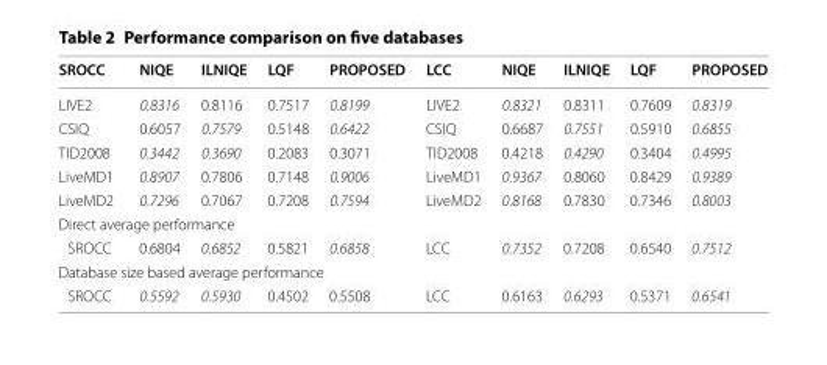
<table><thead><tr><td>SROCC</td><td>NIQE</td><td>ILNIQE</td><td>LQF</td><td>PROPOSED</td><td>LCC</td><td>NIQE</td><td>ILNIQE</td><td>LQF</td><td>PROPOSED</td></tr></thead><tbody><tr><td>LIVE2</td><td>0.8316</td><td>0.8116</td><td>0.7517</td><td>0.8199</td><td>LIVE2</td><td>0.8321</td><td>0.8311</td><td>0.7609</td><td>0.8319</td></tr><tr><td>CSIQ</td><td>0.6057</td><td>0.7579</td><td>0.5148</td><td>0.6422</td><td>CSIQ</td><td>0.6687</td><td>0.7551</td><td>0.5910</td><td>0.6855</td></tr><tr><td>TID2008</td><td>0.3442</td><td>0.3690</td><td>0.2083</td><td>0.3071</td><td>TID2008</td><td>0.4218</td><td>0.4290</td><td>0.3404</td><td>0.4995</td></tr><tr><td>LiveMD1</td><td>0.8907</td><td>0.7806</td><td>0.7148</td><td>0.9006</td><td>LiveMD1</td><td>0.9367</td><td>0.8060</td><td>0.8429</td><td>0.9389</td></tr><tr><td>LiveMD2</td><td>0.7296</td><td>0.7067</td><td>0.7208</td><td>0.7594</td><td>LiveMD2</td><td>0.8168</td><td>0.7830</td><td>0.7346</td><td>0.8003</td></tr><tr><td colspan="10">Direct average performance</td></tr><tr><td>SROCC</td><td>0.6804</td><td>0.6852</td><td>0.5821</td><td>0.6858</td><td>LCC</td><td>0.7352</td><td>0.7208</td><td>0.6540</td><td>0.7512</td></tr><tr><td colspan="10">Database size based average performance</td></tr><tr><td>SROCC</td><td>0.5592</td><td>0.5930</td><td>0.4502</td><td>0.5508</td><td>LCC</td><td>0.6163</td><td>0.6293</td><td>0.5371</td><td>0.6541</td></tr></tbody></table>